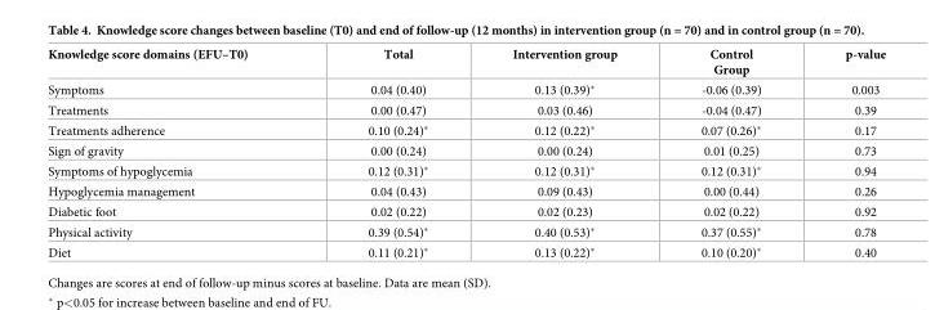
<table><thead><tr><td>Knowledge score domains (EFU–T0)</td><td>Total</td><td>Intervention group</td><td>Control Group</td><td>p-value</td></tr></thead><tbody><tr><td>Symptoms</td><td>0.04 (0.40)</td><td>0.13 (0.39)*</td><td>-0.06 (0.39)</td><td>0.003</td></tr><tr><td>Treatments</td><td>0.00 (0.47)</td><td>0.03 (0.46)</td><td>-0.04 (0.47)</td><td>0.39</td></tr><tr><td>Treatments adherence</td><td>0.10 (0.24)*</td><td>0.12 (0.22)*</td><td>0.07 (0.26)*</td><td>0.17</td></tr><tr><td>Sign of gravity</td><td>0.00 (0.24)</td><td>0.00 (0.24)</td><td>0.01 (0.25)</td><td>0.73</td></tr><tr><td>Symptoms of hypoglycemia</td><td>0.12 (0.31)*</td><td>0.12 (0.31)*</td><td>0.12 (0.31)*</td><td>0.94</td></tr><tr><td>Hypoglycemia management</td><td>0.04 (0.43)</td><td>0.09 (0.43)</td><td>0.00 (0.44)</td><td>0.26</td></tr><tr><td>Diabetic foot</td><td>0.02 (0.22)</td><td>0.02 (0.23)</td><td>0.02 (0.22)</td><td>0.92</td></tr><tr><td>Physical activity</td><td>0.39 (0.54)*</td><td>0.40 (0.53)*</td><td>0.37 (0.55)*</td><td>0.78</td></tr><tr><td>Diet</td><td>0.11 (0.21)*</td><td>0.13 (0.22)*</td><td>0.10 (0.20)*</td><td>0.40</td></tr></tbody></table>